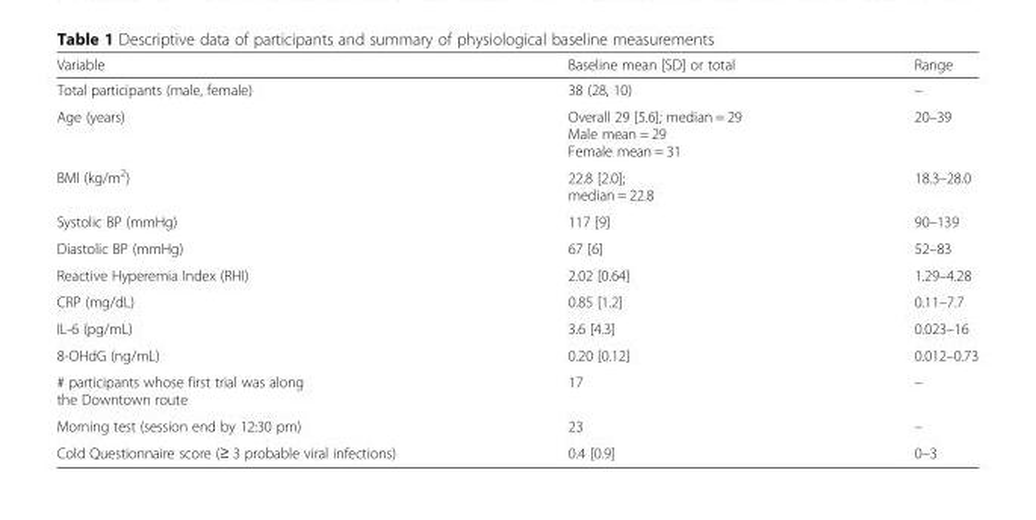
<table><thead><tr><td>Variable</td><td>Baseline mean [SD] or total</td><td>Range</td></tr></thead><tbody><tr><td>Total participants (male, female)</td><td>38 (28, 10)</td><td>–</td></tr><tr><td>Age (years)</td><td>Overall 29 [5.6]; median = 29 Male mean = 29 Female mean = 31</td><td>20–39</td></tr><tr><td>BMI (kg/m<sup>2</sup>)</td><td>22.8 [2.0]; median = 22.8</td><td>18.3–28.0</td></tr><tr><td>Systolic BP (mmHg)</td><td>117 [9]</td><td>90–139</td></tr><tr><td>Diastolic BP (mmHg)</td><td>67 [6]</td><td>52–83</td></tr><tr><td>Reactive Hyperemia Index (RHI)</td><td>2.02 [0.64]</td><td>1.29–4.28</td></tr><tr><td>CRP (mg/dL)</td><td>0.85 [1.2]</td><td>0.11–7.7</td></tr><tr><td>IL-6 (pg/mL)</td><td>3.6 [4.3]</td><td>0.023–16</td></tr><tr><td>8-OHdG (ng/mL)</td><td>0.20 [0.12]</td><td>0.012–0.73</td></tr><tr><td># participants whose first trial was along the Downtown route</td><td>17</td><td>–</td></tr><tr><td>Morning test (session end by 12:30 pm)</td><td>23</td><td>–</td></tr><tr><td>Cold Questionnaire score (≥ 3 probable viral infections)</td><td>0.4 [0.9]</td><td>0–3</td></tr></tbody></table>